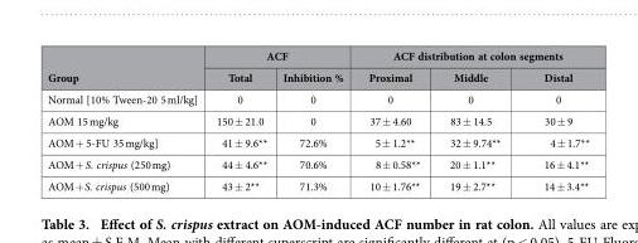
<table><thead><tr><td rowspan="2">Group</td><td colspan="2">ACF</td><td colspan="3">ACF distribution at colon segments</td></tr><tr><td>Total</td><td>Inhibition %</td><td>Proximal</td><td>Middle</td><td>Distal</td></tr></thead><tbody><tr><td>Normal [10% Tween-20 5 ml/kg]</td><td>0</td><td>0</td><td>0</td><td>0</td><td>0</td></tr><tr><td>AOM 15 mg/kg</td><td>150 ± 21.0</td><td>0</td><td>37 ± 4.60</td><td>83 ± 14.5</td><td>30 ± 9</td></tr><tr><td>AOM + 5-FU 35 mg/kg]</td><td>41 ± 9.6**</td><td>72.6%</td><td>5 ± 1.2**</td><td>32 ± 9.74**</td><td>4 ± 1.7**</td></tr><tr><td>AOM + S. crispus (250 mg)</td><td>44 ± 4.6**</td><td>70.6%</td><td>8 ± 0.58**</td><td>20 ± 1.1**</td><td>16 ± 4.1**</td></tr><tr><td>AOM + S. crispus (500 mg)</td><td>43 ± 2**</td><td>71.3%</td><td>10 ± 1.76**</td><td>19 ± 2.7**</td><td>14 ± 3.4**</td></tr></tbody></table>